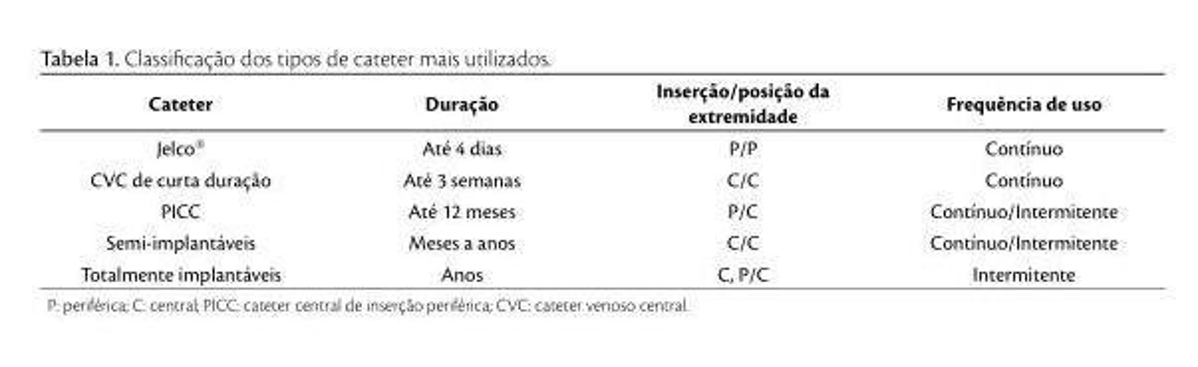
<table><thead><tr><td>Cateter</td><td>Duração</td><td>Inserção/posição da extremidade</td><td>Frequência de uso</td></tr></thead><tbody><tr><td>Jelco®</td><td>Até 4 dias</td><td>P/P</td><td>Contínuo</td></tr><tr><td>CVC de curta duração</td><td>Até 3 semanas</td><td>C/C</td><td>Contínuo</td></tr><tr><td>PICC</td><td>Até 12 meses</td><td>P/C</td><td>Contínuo/Intermitente</td></tr><tr><td>Semi-implantáveis</td><td>Meses a anos</td><td>C/C</td><td>Contínuo/Intermitente</td></tr><tr><td>Totalmente implantáveis</td><td>Anos</td><td>C, P/C</td><td>Intermitente</td></tr></tbody></table>